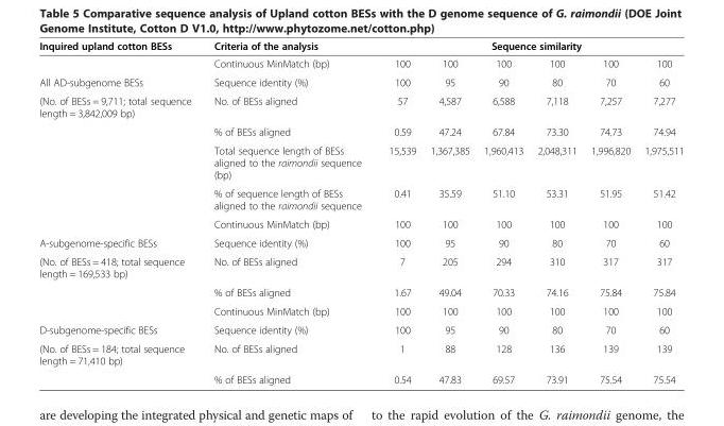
<table><thead><tr><td rowspan="2">Inquired upland cotton BESs</td><td rowspan="2">Criteria of the analysis Continuous MinMatch (bp)</td><td colspan="6">Sequence similarity</td></tr><tr><td>100</td><td>100</td><td>100</td><td>100</td><td>100</td><td>100</td></tr></thead><tbody><tr><td>All AD-subgenome BESs</td><td>Sequence identity (%)</td><td>100</td><td>95</td><td>90</td><td>80</td><td>70</td><td>60</td></tr><tr><td rowspan="5">(No. of BESs = 9,711; total sequence length = 3,842,009 bp)</td><td>No. of BESs aligned</td><td>57</td><td>4,587</td><td>6,588</td><td>7,118</td><td>7,257</td><td>7,277</td></tr><tr><td>% of BESs aligned</td><td>0.59</td><td>47.24</td><td>67.84</td><td>73.30</td><td>74.73</td><td>74.94</td></tr><tr><td>Total sequence length of BESs aligned to the raimondii sequence (bp)</td><td>15,539</td><td>1,367,385</td><td>1,960,413</td><td>2,048,311</td><td>1,996,820</td><td>1,975,511</td></tr><tr><td>% of sequence length of BESs aligned to the raimondii sequence</td><td>0.41</td><td>35.59</td><td>51.10</td><td>53.31</td><td>51.95</td><td>51.42</td></tr><tr><td>Continuous MinMatch (bp)</td><td>100</td><td>100</td><td>100</td><td>100</td><td>100</td><td>100</td></tr><tr><td>A-subgenome-specific BESs</td><td>Sequence identity (%)</td><td>100</td><td>95</td><td>90</td><td>80</td><td>70</td><td>60</td></tr><tr><td rowspan="3">(No. of BESs = 418; total sequence length = 169,533 bp)</td><td>No. of BESs aligned</td><td>7</td><td>205</td><td>294</td><td>310</td><td>317</td><td>317</td></tr><tr><td>% of BESs aligned</td><td>1.67</td><td>49.04</td><td>70.33</td><td>74.16</td><td>75.84</td><td>75.84</td></tr><tr><td>Continuous MinMatch (bp)</td><td>100</td><td>100</td><td>100</td><td>100</td><td>100</td><td>100</td></tr><tr><td>D-subgenome-specific BESs</td><td>Sequence identity (%)</td><td>100</td><td>95</td><td>90</td><td>80</td><td>70</td><td>60</td></tr><tr><td rowspan="2">(No. of BESs = 184; total sequence length = 71,410 bp)</td><td>No. of BESs aligned</td><td>1</td><td>88</td><td>128</td><td>136</td><td>139</td><td>139</td></tr><tr><td>% of BESs aligned</td><td>0.54</td><td>47.83</td><td>69.57</td><td>73.91</td><td>75.54</td><td>75.54</td></tr></tbody></table>